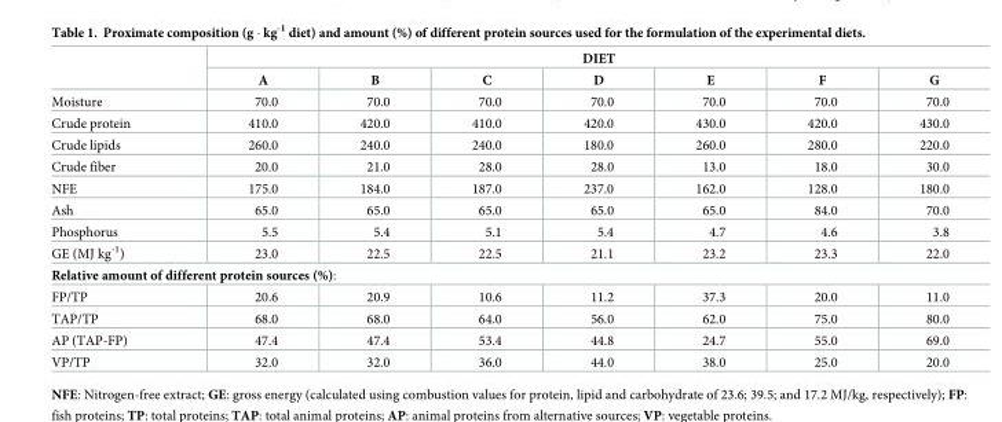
<table><thead><tr><td rowspan="2"></td><td colspan="7">DIET</td></tr><tr><td>A</td><td>B</td><td>C</td><td>D</td><td>E</td><td>F</td><td>G</td></tr></thead><tbody><tr><td>Moisture</td><td>70.0</td><td>70.0</td><td>70.0</td><td>70.0</td><td>70.0</td><td>70.0</td><td>70.0</td></tr><tr><td>Crude protein</td><td>410.0</td><td>420.0</td><td>410.0</td><td>420.0</td><td>430.0</td><td>420.0</td><td>430.0</td></tr><tr><td>Crude lipids</td><td>260.0</td><td>240.0</td><td>240.0</td><td>180.0</td><td>260.0</td><td>280.0</td><td>220.0</td></tr><tr><td>Crude fiber</td><td>20.0</td><td>21.0</td><td>28.0</td><td>28.0</td><td>13.0</td><td>18.0</td><td>30.0</td></tr><tr><td>NFE</td><td>175.0</td><td>184.0</td><td>187.0</td><td>237.0</td><td>162.0</td><td>128.0</td><td>180.0</td></tr><tr><td>Ash</td><td>65.0</td><td>65.0</td><td>65.0</td><td>65.0</td><td>65.0</td><td>84.0</td><td>70.0</td></tr><tr><td>Phosphorus</td><td>5.5</td><td>5.4</td><td>5.1</td><td>5.4</td><td>4.7</td><td>4.6</td><td>3.8</td></tr><tr><td>GE (MJ kg<sup>-1</sup>)</td><td>23.0</td><td>22.5</td><td>22.5</td><td>21.1</td><td>23.2</td><td>23.3</td><td>22.0</td></tr><tr><td colspan="8">Relative amount of different protein sources (%):</td></tr><tr><td>FP/TP</td><td>20.6</td><td>20.9</td><td>10.6</td><td>11.2</td><td>37.3</td><td>20.0</td><td>11.0</td></tr><tr><td>TAP/TP</td><td>68.0</td><td>68.0</td><td>64.0</td><td>56.0</td><td>62.0</td><td>75.0</td><td>80.0</td></tr><tr><td>AP (TAP-FP)</td><td>47.4</td><td>47.4</td><td>53.4</td><td>44.8</td><td>24.7</td><td>55.0</td><td>69.0</td></tr><tr><td>VP/TP</td><td>32.0</td><td>32.0</td><td>36.0</td><td>44.0</td><td>38.0</td><td>25.0</td><td>20.0</td></tr></tbody></table>